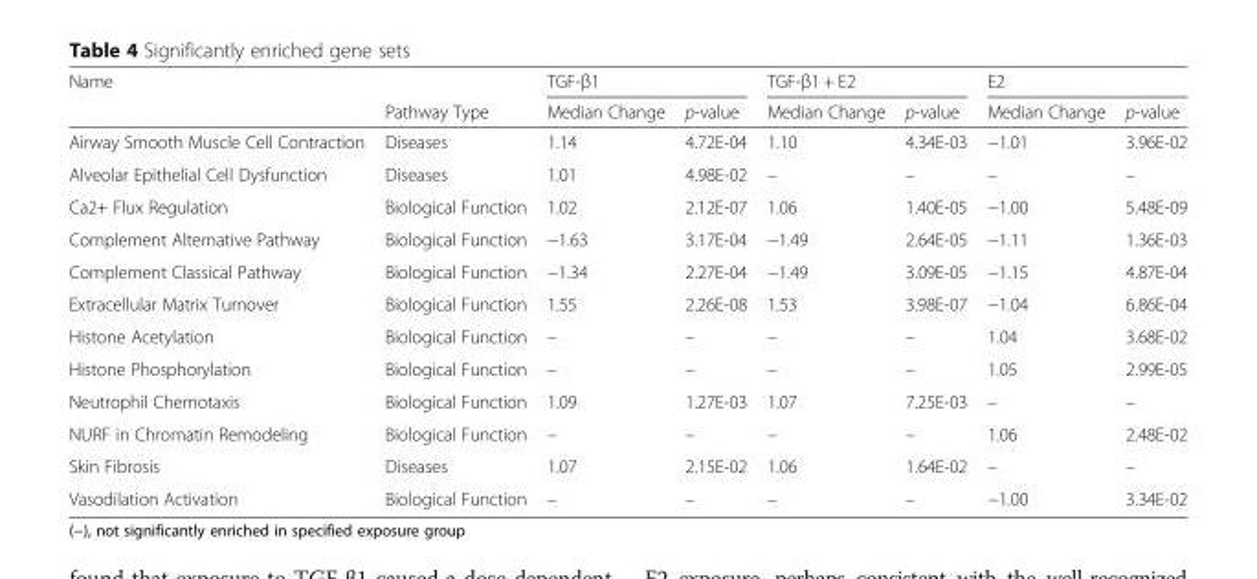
<table><thead><tr><td rowspan="2">Name</td><td rowspan="2">Pathway Type</td><td colspan="2">TGF-β1</td><td colspan="2">TGF-β1 + E2</td><td colspan="2">E2</td></tr><tr><td>Median Change</td><td>p-value</td><td>Median Change</td><td>p-value</td><td>Median Change</td><td>p-value</td></tr></thead><tbody><tr><td>Airway Smooth Muscle Cell Contraction</td><td>Diseases</td><td>1.14</td><td>4.72E-04</td><td>1.10</td><td>4.34E-03</td><td>−1.01</td><td>3.96E-02</td></tr><tr><td>Alveolar Epithelial Cell Dysfunction</td><td>Diseases</td><td>1.01</td><td>4.98E-02</td><td>–</td><td>–</td><td>–</td><td>–</td></tr><tr><td>Ca2+ Flux Regulation</td><td>Biological Function</td><td>1.02</td><td>2.12E-07</td><td>1.06</td><td>1.40E-05</td><td>−1.00</td><td>5.48E-09</td></tr><tr><td>Complement Alternative Pathway</td><td>Biological Function</td><td>−1.63</td><td>3.17E-04</td><td>−1.49</td><td>2.64E-05</td><td>−1.11</td><td>1.36E-03</td></tr><tr><td>Complement Classical Pathway</td><td>Biological Function</td><td>−1.34</td><td>2.27E-04</td><td>−1.49</td><td>3.09E-05</td><td>−1.15</td><td>4.87E-04</td></tr><tr><td>Extracellular Matrix Turnover</td><td>Biological Function</td><td>1.55</td><td>2.26E-08</td><td>1.53</td><td>3.98E-07</td><td>−1.04</td><td>6.86E-04</td></tr><tr><td>Histone Acetylation</td><td>Biological Function</td><td>–</td><td>–</td><td>–</td><td>–</td><td>1.04</td><td>3.68E-02</td></tr><tr><td>Histone Phosphorylation</td><td>Biological Function</td><td>–</td><td>–</td><td>–</td><td>–</td><td>1.05</td><td>2.99E-05</td></tr><tr><td>Neutrophil Chemotaxis</td><td>Biological Function</td><td>1.09</td><td>1.27E-03</td><td>1.07</td><td>7.25E-03</td><td>–</td><td>–</td></tr><tr><td>NURF in Chromatin Remodeling</td><td>Biological Function</td><td>–</td><td>–</td><td>–</td><td>–</td><td>1.06</td><td>2.48E-02</td></tr><tr><td>Skin Fibrosis</td><td>Diseases</td><td>1.07</td><td>2.15E-02</td><td>1.06</td><td>1.64E-02</td><td>–</td><td>–</td></tr><tr><td>Vasodilation Activation</td><td>Biological Function</td><td>–</td><td>–</td><td>–</td><td>–</td><td>−1.00</td><td>3.34E-02</td></tr></tbody></table>